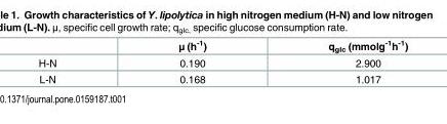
<table><thead><tr><td></td><td>μ (h<sup>-1</sup>)</td><td>q<sub>glc</sub> (mmolg<sup>-1</sup>h<sup>-1</sup>)</td></tr></thead><tbody><tr><td>H-N</td><td>0.190</td><td>2.900</td></tr><tr><td>L-N</td><td>0.168</td><td>1.017</td></tr></tbody></table>